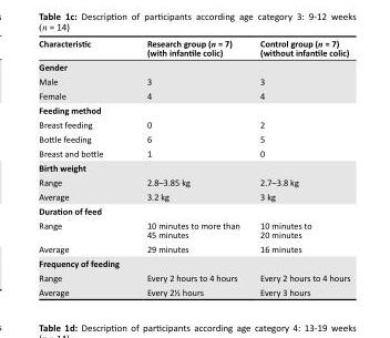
<table><thead><tr><td>Characteristic</td><td>Research group (n = 7) (with infantile colic)</td><td>Control group (n = 7) (without infantile colic)</td></tr></thead><tbody><tr><td colspan="3">Gender</td></tr><tr><td>Male</td><td>3</td><td>3</td></tr><tr><td>Female</td><td>4</td><td>4</td></tr><tr><td colspan="3">Feeding method</td></tr><tr><td>Breast feeding</td><td>0</td><td>2</td></tr><tr><td>Bottle feeding</td><td>6</td><td>5</td></tr><tr><td>Breast and bottle</td><td>1</td><td>0</td></tr><tr><td colspan="3">Birth weight</td></tr><tr><td>Range</td><td>2.8–3.85 kg</td><td>2.7–3.8 kg</td></tr><tr><td>Average</td><td>3.2 kg</td><td>3 kg</td></tr><tr><td colspan="3">Duration of feed</td></tr><tr><td>Range</td><td>10 minutes to more than 45 minutes</td><td>10 minutes to 20 minutes</td></tr><tr><td>Average</td><td>29 minutes</td><td>16 minutes</td></tr><tr><td colspan="3">Frequency of feeding</td></tr><tr><td>Range</td><td>Every 2 hours to 4 hours</td><td>Every 2 hours to 4 hours</td></tr><tr><td>Average</td><td>Every 2½ hours</td><td>Every 3 hours</td></tr></tbody></table>